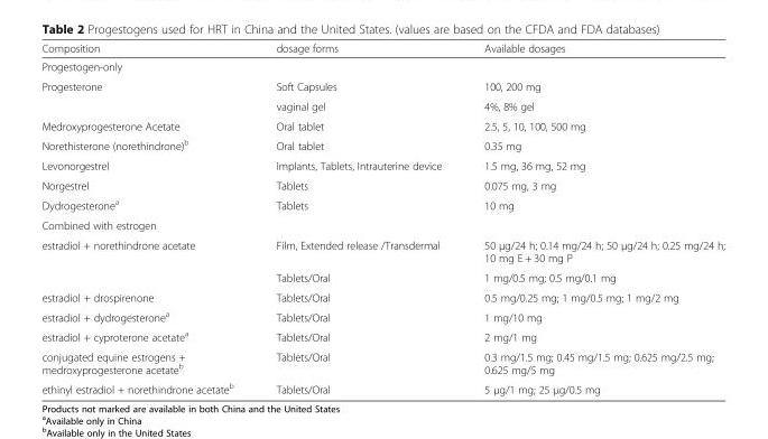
<table><thead><tr><td>Composition</td><td>dosage forms</td><td>Available dosages</td></tr></thead><tbody><tr><td colspan="3">Progestogen-only</td></tr><tr><td rowspan="2">Progesterone</td><td>Soft Capsules</td><td>100, 200 mg</td></tr><tr><td>vaginal gel</td><td>4%, 8% gel</td></tr><tr><td>Medroxyprogesterone Acetate</td><td>Oral tablet</td><td>2.5, 5, 10, 100, 500 mg</td></tr><tr><td>Norethisterone (norethindrone)<sup>b</sup></td><td>Oral tablet</td><td>0.35 mg</td></tr><tr><td>Levonorgestrel</td><td>Implants, Tablets, Intrauterine device</td><td>1.5 mg, 36 mg, 52 mg</td></tr><tr><td>Norgestrel</td><td>Tablets</td><td>0.075 mg, 3 mg</td></tr><tr><td>Dydrogesterone<sup>a</sup></td><td>Tablets</td><td>10 mg</td></tr><tr><td colspan="3">Combined with estrogen</td></tr><tr><td rowspan="2">estradiol + norethindrone acetate</td><td>Film, Extended release /Transdermal</td><td>50 μg/24 h; 0.14 mg/24 h; 50 μg/24 h; 0.25 mg/24 h; 10 mg E + 30 mg P</td></tr><tr><td>Tablets/Oral</td><td>1 mg/0.5 mg; 0.5 mg/0.1 mg</td></tr><tr><td>estradiol + drospirenone</td><td>Tablets/Oral</td><td>0.5 mg/0.25 mg; 1 mg/0.5 mg; 1 mg/2 mg</td></tr><tr><td>estradiol + dydrogesterone<sup>a</sup></td><td>Tablets/Oral</td><td>1 mg/10 mg</td></tr><tr><td>estradiol + cyproterone acetate<sup>a</sup></td><td>Tablets/Oral</td><td>2 mg/1 mg</td></tr><tr><td>conjugated equine estrogens + medroxyprogesterone acetate<sup>b</sup></td><td>Tablets/Oral</td><td>0.3 mg/1.5 mg; 0.45 mg/1.5 mg; 0.625 mg/2.5 mg; 0.625 mg/5 mg</td></tr><tr><td>ethinyl estradiol + norethindrone acetate<sup>b</sup></td><td>Tablets/Oral</td><td>5 μg/1 mg; 25 μg/0.5 mg</td></tr></tbody></table>